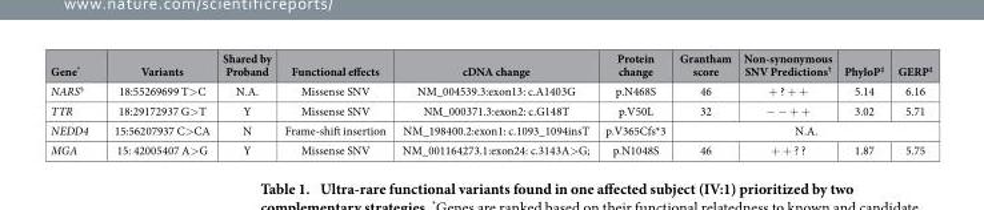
<table><thead><tr><td>Gene*</td><td>Variants</td><td>Shared by Proband</td><td>Functional effects</td><td>cDNA change</td><td>Protein change</td><td>Grantham score</td><td>Non-synonymous SNV Predictions†</td><td>PhyloP‡</td><td>GERP<sup>‡</sup></td></tr></thead><tbody><tr><td>NARS§</td><td>18:55269699 T&gt; C</td><td>N.A.</td><td>Missense SNV</td><td>NM_004539.3:exon13: c.A1403G</td><td>p.N468S</td><td>46</td><td>+ ? + +</td><td>5.14</td><td>6.16</td></tr><tr><td>TTR</td><td>18:29172937 G&gt; T</td><td>Y</td><td>Missense SNV</td><td>NM_000371.3:exon2: c.G148T</td><td>p.V50L</td><td>32</td><td>− − + +</td><td>3.02</td><td>5.71</td></tr><tr><td>NEDD4</td><td>15:56207937 C&gt; CA</td><td>N</td><td>Frame-shift insertion</td><td>NM_198400.2:exon1: c.1093_1094insT</td><td>p.V365Cfs*3</td><td colspan="4">N.A.</td></tr><tr><td>MGA</td><td>15: 42005407 A&gt; G</td><td>Y</td><td>Missense SNV</td><td>NM_001164273.1:exon24: c.3143A&gt; G;</td><td>p.N1048S</td><td>46</td><td>+ + ? ?</td><td>1.87</td><td>5.75</td></tr></tbody></table>